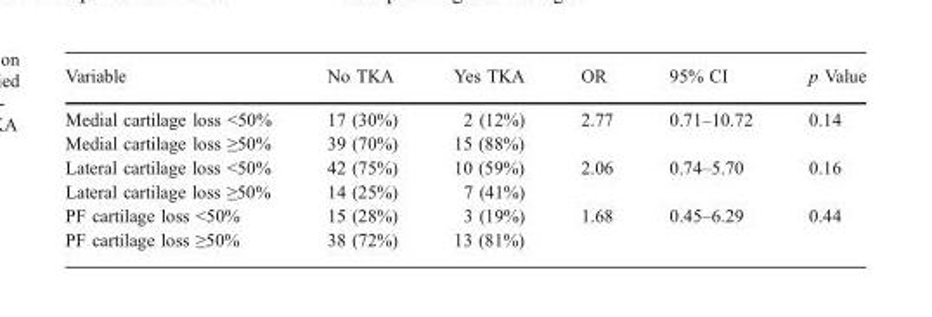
<table><thead><tr><td>Variable</td><td>No TKA</td><td>Yes TKA</td><td>OR</td><td>95% CI</td><td>p Value</td></tr></thead><tbody><tr><td>Medial cartilage loss &lt;50%</td><td>17 (30%)</td><td>2 (12%)</td><td rowspan="2">2.77</td><td rowspan="2">0.71–10.72</td><td rowspan="2">0.14</td></tr><tr><td>Medial cartilage loss ≥50%</td><td>39 (70%)</td><td>15 (88%)</td></tr><tr><td>Lateral cartilage loss &lt;50%</td><td>42 (75%)</td><td>10 (59%)</td><td rowspan="2">2.06</td><td rowspan="2">0.74–5.70</td><td rowspan="2">0.16</td></tr><tr><td>Lateral cartilage loss ≥50%</td><td>14 (25%)</td><td>7 (41%)</td></tr><tr><td>PF cartilage loss &lt;50%</td><td>15 (28%)</td><td>3 (19%)</td><td rowspan="2">1.68</td><td rowspan="2">0.45–6.29</td><td rowspan="2">0.44</td></tr><tr><td>PF cartilage loss ≥50%</td><td>38 (72%)</td><td>13 (81%)</td></tr></tbody></table>